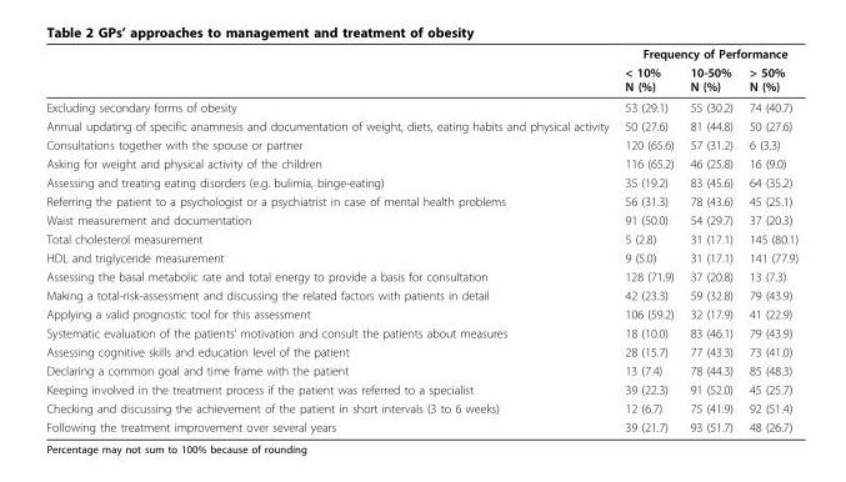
<table><thead><tr><td rowspan="2"></td><td colspan="3">Frequency of Performance</td></tr><tr><td>&lt; 10% N (%)</td><td>10-50% N (%)</td><td>&gt; 50% N (%)</td></tr></thead><tbody><tr><td>Excluding secondary forms of obesity</td><td>53 (29.1)</td><td>55 (30.2)</td><td>74 (40.7)</td></tr><tr><td>Annual updating of specific anamnesis and documentation of weight, diets, eating habits and physical activity</td><td>50 (27.6)</td><td>81 (44.8)</td><td>50 (27.6)</td></tr><tr><td>Consultations together with the spouse or partner</td><td>120 (65.6)</td><td>57 (31.2)</td><td>6 (3.3)</td></tr><tr><td>Asking for weight and physical activity of the children</td><td>116 (65.2)</td><td>46 (25.8)</td><td>16 (9.0)</td></tr><tr><td>Assessing and treating eating disorders (e.g. bulimia, binge-eating)</td><td>35 (19.2)</td><td>83 (45.6)</td><td>64 (35.2)</td></tr><tr><td>Referring the patient to a psychologist or a psychiatrist in case of mental health problems</td><td>56 (31.3)</td><td>78 (43.6)</td><td>45 (25.1)</td></tr><tr><td>Waist measurement and documentation</td><td>91 (50.0)</td><td>54 (29.7)</td><td>37 (20.3)</td></tr><tr><td>Total cholesterol measurement</td><td>5 (2.8)</td><td>31 (17.1)</td><td>145 (80.1)</td></tr><tr><td>HDL and triglyceride measurement</td><td>9 (5.0)</td><td>31 (17.1)</td><td>141 (77.9)</td></tr><tr><td>Assessing the basal metabolic rate and total energy to provide a basis for consultation</td><td>128 (71.9)</td><td>37 (20.8)</td><td>13 (7.3)</td></tr><tr><td>Making a total-risk-assessment and discussing the related factors with patients in detail</td><td>42 (23.3)</td><td>59 (32.8)</td><td>79 (43.9)</td></tr><tr><td>Applying a valid prognostic tool for this assessment</td><td>106 (59.2)</td><td>32 (17.9)</td><td>41 (22.9)</td></tr><tr><td>Systematic evaluation of the patients’ motivation and consult the patients about measures</td><td>18 (10.0)</td><td>83 (46.1)</td><td>79 (43.9)</td></tr><tr><td>Assessing cognitive skills and education level of the patient</td><td>28 (15.7)</td><td>77 (43.3)</td><td>73 (41.0)</td></tr><tr><td>Declaring a common goal and time frame with the patient</td><td>13 (7.4)</td><td>78 (44.3)</td><td>85 (48.3)</td></tr><tr><td>Keeping involved in the treatment process if the patient was referred to a specialist</td><td>39 (22.3)</td><td>91 (52.0)</td><td>45 (25.7)</td></tr><tr><td>Checking and discussing the achievement of the patient in short intervals (3 to 6 weeks)</td><td>12 (6.7)</td><td>75 (41.9)</td><td>92 (51.4)</td></tr><tr><td>Following the treatment improvement over several years</td><td>39 (21.7)</td><td>93 (51.7)</td><td>48 (26.7)</td></tr></tbody></table>